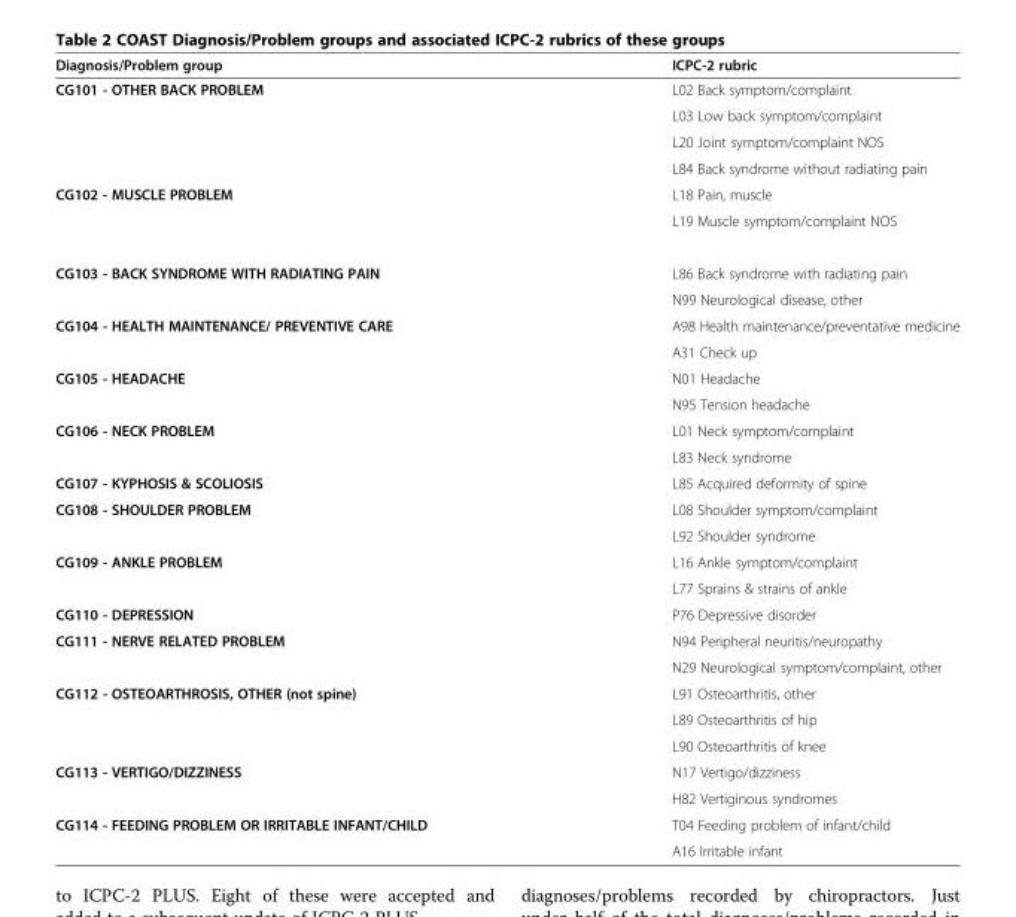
<table><thead><tr><td>Diagnosis/Problem group</td><td>ICPC-2 rubric</td></tr></thead><tbody><tr><td rowspan="4">CG101 - OTHER BACK PROBLEM</td><td>L02 Back symptom/complaint</td></tr><tr><td>L03 Low back symptom/complaint</td></tr><tr><td>L20 Joint symptom/complaint NOS</td></tr><tr><td>L84 Back syndrome without radiating pain</td></tr><tr><td rowspan="2">CG102 - MUSCLE PROBLEM</td><td>L18 Pain, muscle</td></tr><tr><td>L19 Muscle symptom/complaint NOS</td></tr><tr><td rowspan="2">CG103 - BACK SYNDROME WITH RADIATING PAIN</td><td>L86 Back syndrome with radiating pain</td></tr><tr><td>N99 Neurological disease, other</td></tr><tr><td rowspan="2">CG104 - HEALTH MAINTENANCE/ PREVENTIVE CARE</td><td>A98 Health maintenance/preventative medicine</td></tr><tr><td>A31 Check up</td></tr><tr><td rowspan="2">CG105 - HEADACHE</td><td>N01 Headache</td></tr><tr><td>N95 Tension headache</td></tr><tr><td rowspan="2">CG106 - NECK PROBLEM</td><td>L01 Neck symptom/complaint</td></tr><tr><td>L83 Neck syndrome</td></tr><tr><td>CG107 - KYPHOSIS &amp; SCOLIOSIS</td><td>L85 Acquired deformity of spine</td></tr><tr><td rowspan="2">CG108 - SHOULDER PROBLEM</td><td>L08 Shoulder symptom/complaint</td></tr><tr><td>L92 Shoulder syndrome</td></tr><tr><td rowspan="2">CG109 - ANKLE PROBLEM</td><td>L16 Ankle symptom/complaint</td></tr><tr><td>L77 Sprains &amp; strains of ankle</td></tr><tr><td>CG110 - DEPRESSION</td><td>P76 Depressive disorder</td></tr><tr><td rowspan="2">CG111 - NERVE RELATED PROBLEM</td><td>N94 Peripheral neuritis/neuropathy</td></tr><tr><td>N29 Neurological symptom/complaint, other</td></tr><tr><td rowspan="3">CG112 - OSTEOARTHROSIS, OTHER (not spine)</td><td>L91 Osteoarthritis, other</td></tr><tr><td>L89 Osteoarthritis of hip</td></tr><tr><td>L90 Osteoarthritis of knee</td></tr><tr><td rowspan="2">CG113 - VERTIGO/DIZZINESS</td><td>N17 Vertigo/dizziness</td></tr><tr><td>H82 Vertiginous syndromes</td></tr><tr><td rowspan="2">CG114 - FEEDING PROBLEM OR IRRITABLE INFANT/CHILD</td><td>T04 Feeding problem of infant/child</td></tr><tr><td>A16 Irritable infant</td></tr></tbody></table>